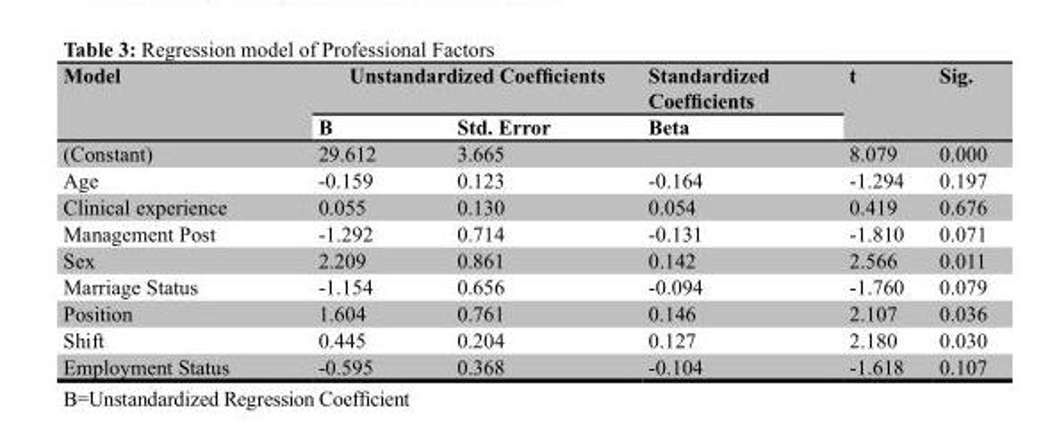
<table><thead><tr><td rowspan="2">Model</td><td colspan="2">Unstandardized Coefficients</td><td rowspan="2">Standardized Coefficients Beta</td><td rowspan="2">t</td><td rowspan="2">Sig.</td></tr><tr><td>B</td><td>Std. Error</td></tr></thead><tbody><tr><td>(Constant)</td><td>29.612</td><td>3.665</td><td></td><td>8.079</td><td>0.000</td></tr><tr><td>Age</td><td>-0.159</td><td>0.123</td><td>-0.164</td><td>-1.294</td><td>0.197</td></tr><tr><td>Clinical experience</td><td>0.055</td><td>0.130</td><td>0.054</td><td>0.419</td><td>0.676</td></tr><tr><td>Management Post</td><td>-1.292</td><td>0.714</td><td>-0.131</td><td>-1.810</td><td>0.071</td></tr><tr><td>Sex</td><td>2.209</td><td>0.861</td><td>0.142</td><td>2.566</td><td>0.011</td></tr><tr><td>Marriage Status</td><td>-1.154</td><td>0.656</td><td>-0.094</td><td>-1.760</td><td>0.079</td></tr><tr><td>Position</td><td>1.604</td><td>0.761</td><td>0.146</td><td>2.107</td><td>0.036</td></tr><tr><td>Shift</td><td>0.445</td><td>0.204</td><td>0.127</td><td>2.180</td><td>0.030</td></tr><tr><td>Employment Status</td><td>-0.595</td><td>0.368</td><td>-0.104</td><td>-1.618</td><td>0.107</td></tr></tbody></table>